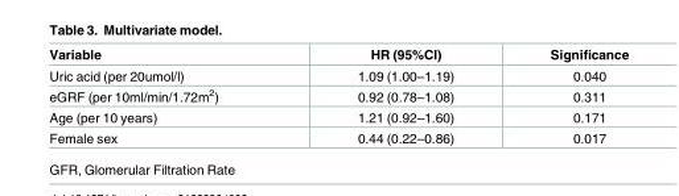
<table><thead><tr><td>Variable</td><td>HR (95%CI)</td><td>Significance</td></tr></thead><tbody><tr><td>Uric acid (per 20umol/l)</td><td>1.09 (1.00–1.19)</td><td>0.040</td></tr><tr><td>eGRF (per 10ml/min/1.72m<sup>2</sup>)</td><td>0.92 (0.78–1.08)</td><td>0.311</td></tr><tr><td>Age (per 10 years)</td><td>1.21 (0.92–1.60)</td><td>0.171</td></tr><tr><td>Female sex</td><td>0.44 (0.22–0.86)</td><td>0.017</td></tr></tbody></table>